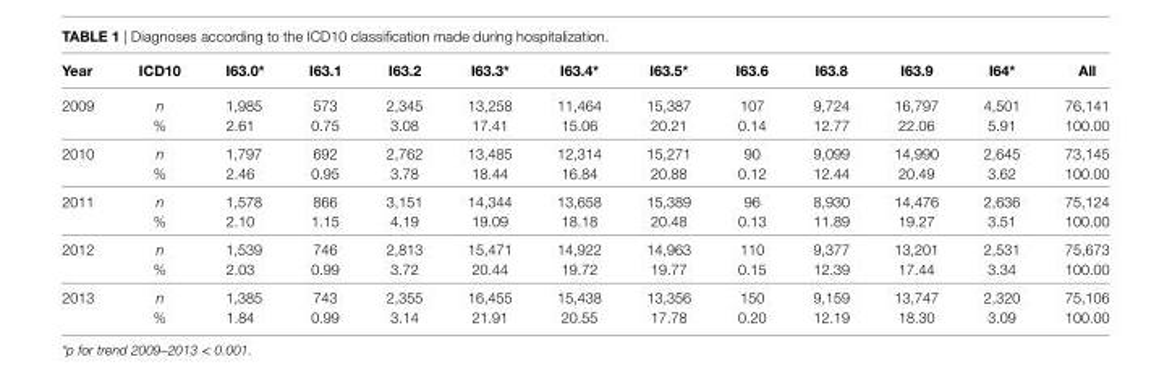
<table><thead><tr><td>Year</td><td>icD10</td><td>i63.0*</td><td>i63.1</td><td>i63.2</td><td>i63.3*</td><td>i63.4*</td><td>i63.5*</td><td>i63.6</td><td>i63.8</td><td>i63.9</td><td>i64*</td><td>all</td></tr></thead><tbody><tr><td rowspan="2">2009</td><td>n</td><td>1,985</td><td>573</td><td>2,345</td><td>13,258</td><td>11,464</td><td>15,387</td><td>107</td><td>9,724</td><td>16,797</td><td>4,501</td><td>76,141</td></tr><tr><td>%</td><td>2.61</td><td>0.75</td><td>3.08</td><td>17.41</td><td>15.06</td><td>20.21</td><td>0.14</td><td>12.77</td><td>22.06</td><td>5.91</td><td>100.00</td></tr><tr><td rowspan="2">2010</td><td>n</td><td>1,797</td><td>692</td><td>2,762</td><td>13,485</td><td>12,314</td><td>15,271</td><td>90</td><td>9,099</td><td>14,990</td><td>2,645</td><td>73,145</td></tr><tr><td>%</td><td>2.46</td><td>0.95</td><td>3.78</td><td>18.44</td><td>16.84</td><td>20.88</td><td>0.12</td><td>12.44</td><td>20.49</td><td>3.62</td><td>100.00</td></tr><tr><td rowspan="2">2011</td><td>n</td><td>1,578</td><td>866</td><td>3,151</td><td>14,344</td><td>13,658</td><td>15,389</td><td>96</td><td>8,930</td><td>14,476</td><td>2,636</td><td>75,124</td></tr><tr><td>%</td><td>2.10</td><td>1.15</td><td>4.19</td><td>19.09</td><td>18.18</td><td>20.48</td><td>0.13</td><td>11.89</td><td>19.27</td><td>3.51</td><td>100.00</td></tr><tr><td rowspan="2">2012</td><td>n</td><td>1,539</td><td>746</td><td>2,813</td><td>15,471</td><td>14,922</td><td>14,963</td><td>110</td><td>9,377</td><td>13,201</td><td>2,531</td><td>75,673</td></tr><tr><td>%</td><td>2.03</td><td>0.99</td><td>3.72</td><td>20.44</td><td>19.72</td><td>19.77</td><td>0.15</td><td>12.39</td><td>17.44</td><td>3.34</td><td>100.00</td></tr><tr><td rowspan="2">2013</td><td>n</td><td>1,385</td><td>743</td><td>2,355</td><td>16,455</td><td>15,438</td><td>13,356</td><td>150</td><td>9,159</td><td>13,747</td><td>2,320</td><td>75,106</td></tr><tr><td>%</td><td>1.84</td><td>0.99</td><td>3.14</td><td>21.91</td><td>20.55</td><td>17.78</td><td>0.20</td><td>12.19</td><td>18.30</td><td>3.09</td><td>100.00</td></tr></tbody></table>